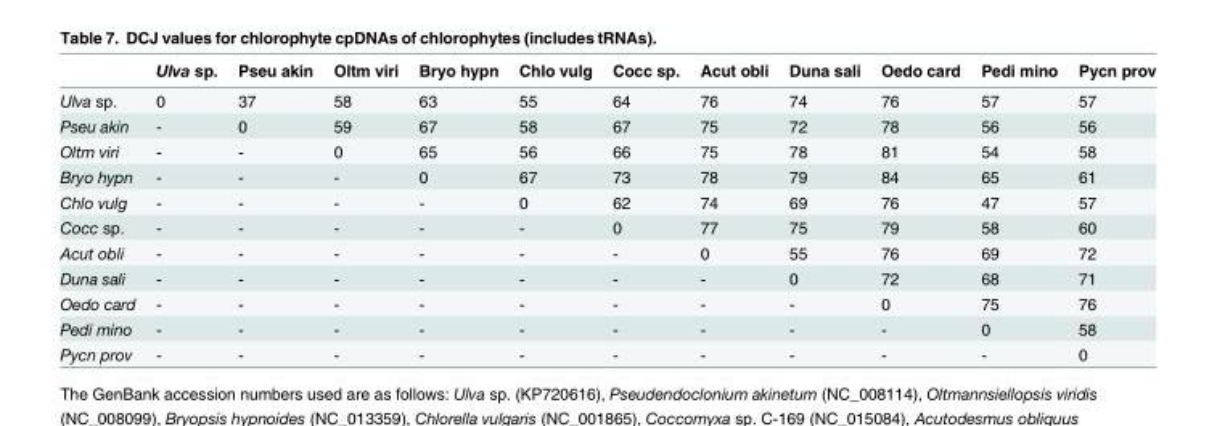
<table><thead><tr><td></td><td>Ulva sp.</td><td>Pseu akin</td><td>Oltm viri</td><td>Bryo hypn</td><td>Chlo vulg</td><td>Cocc sp.</td><td>Acut obli</td><td>Duna sali</td><td>Oedo card</td><td>Pedi mino</td><td>Pycn prov</td></tr></thead><tbody><tr><td>Ulva sp.</td><td>0</td><td>37</td><td>58</td><td>63</td><td>55</td><td>64</td><td>76</td><td>74</td><td>76</td><td>57</td><td>57</td></tr><tr><td>Pseu akin</td><td>-</td><td>0</td><td>59</td><td>67</td><td>58</td><td>67</td><td>75</td><td>72</td><td>78</td><td>56</td><td>56</td></tr><tr><td>Oltm viri</td><td>-</td><td>-</td><td>0</td><td>65</td><td>56</td><td>66</td><td>75</td><td>78</td><td>81</td><td>54</td><td>58</td></tr><tr><td>Bryo hypn</td><td>-</td><td>-</td><td>-</td><td>0</td><td>67</td><td>73</td><td>78</td><td>79</td><td>84</td><td>65</td><td>61</td></tr><tr><td>Chlo vulg</td><td>-</td><td>-</td><td>-</td><td>-</td><td>0</td><td>62</td><td>74</td><td>69</td><td>76</td><td>47</td><td>57</td></tr><tr><td>Cocc sp.</td><td>-</td><td>-</td><td>-</td><td>-</td><td>-</td><td>0</td><td>77</td><td>75</td><td>79</td><td>58</td><td>60</td></tr><tr><td>Acut obli</td><td>-</td><td>-</td><td>-</td><td>-</td><td>-</td><td>-</td><td>0</td><td>55</td><td>76</td><td>69</td><td>72</td></tr><tr><td>Duna sali</td><td>-</td><td>-</td><td>-</td><td>-</td><td>-</td><td>-</td><td>-</td><td>0</td><td>72</td><td>68</td><td>71</td></tr><tr><td>Oedo card</td><td>-</td><td>-</td><td>-</td><td>-</td><td>-</td><td>-</td><td>-</td><td>-</td><td>0</td><td>75</td><td>76</td></tr><tr><td>Pedi mino</td><td>-</td><td>-</td><td>-</td><td>-</td><td>-</td><td>-</td><td>-</td><td>-</td><td>-</td><td>0</td><td>58</td></tr><tr><td>Pycn prov</td><td>-</td><td>-</td><td>-</td><td>-</td><td>-</td><td>-</td><td>-</td><td>-</td><td>-</td><td>-</td><td>0</td></tr></tbody></table>